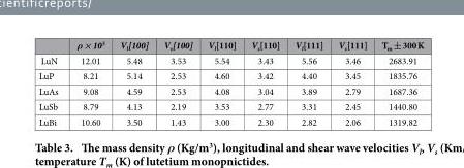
<table><thead><tr><td></td><td>ρ × 10<sup>3</sup></td><td>V<sub>l</sub>[100]</td><td>V<sub>s</sub>[100]</td><td>V<sub>l</sub>[110]</td><td>V<sub>s</sub>[110]</td><td>V<sub>l</sub>[111]</td><td>V<sub>s</sub>[111]</td><td>T<sub>m</sub> ± 300 K</td></tr></thead><tbody><tr><td>LuN</td><td>12.01</td><td>5.48</td><td>3.53</td><td>5.54</td><td>3.43</td><td>5.56</td><td>3.46</td><td>2683.91</td></tr><tr><td>LuP</td><td>8.21</td><td>5.14</td><td>2.53</td><td>4.60</td><td>3.42</td><td>4.40</td><td>3.45</td><td>1835.76</td></tr><tr><td>LuAs</td><td>9.08</td><td>4.59</td><td>2.53</td><td>4.08</td><td>3.04</td><td>3.89</td><td>2.79</td><td>1687.36</td></tr><tr><td>LuSb</td><td>8.79</td><td>4.13</td><td>2.19</td><td>3.53</td><td>2.77</td><td>3.31</td><td>2.45</td><td>1440.80</td></tr><tr><td>LuBi</td><td>10.60</td><td>3.50</td><td>1.43</td><td>3.00</td><td>2.30</td><td>2.82</td><td>2.06</td><td>1319.82</td></tr></tbody></table>